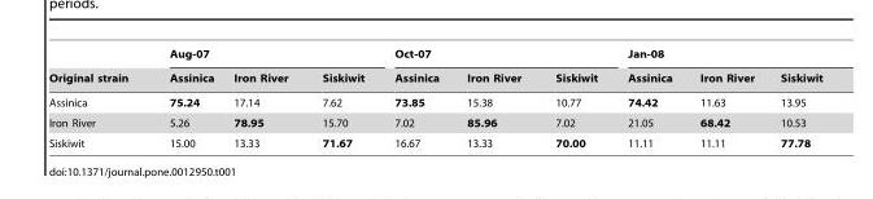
<table><thead><tr><td rowspan="2">Original strain</td><td colspan="3">Aug-07</td><td colspan="3">Oct-07</td><td colspan="3">Jan-08</td></tr><tr><td>Assinica</td><td>Iron River</td><td>Siskiwit</td><td>Assinica</td><td>Iron River</td><td>Siskiwit</td><td>Assinica</td><td>Iron River</td><td>Siskiwit</td></tr></thead><tbody><tr><td>Assinica</td><td>75.24</td><td>17.14</td><td>7.62</td><td>73.85</td><td>15.38</td><td>10.77</td><td>74.42</td><td>11.63</td><td>13.95</td></tr><tr><td>Iron River</td><td>5.26</td><td>78.95</td><td>15.70</td><td>7.02</td><td>85.96</td><td>7.02</td><td>21.05</td><td>68.42</td><td>10.53</td></tr><tr><td>Siskiwit</td><td>15.00</td><td>13.33</td><td>71.67</td><td>16.67</td><td>13.33</td><td>70.00</td><td>11.11</td><td>11.11</td><td>77.78</td></tr></tbody></table>